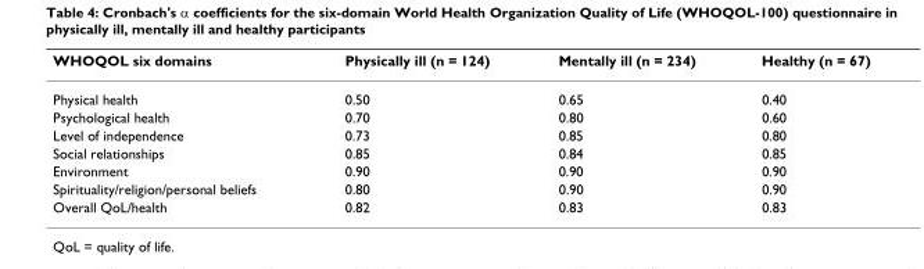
<table><thead><tr><td>WHOQOL six domains</td><td>Physically ill (n = 124)</td><td>Mentally ill (n = 234)</td><td>Healthy (n = 67)</td></tr></thead><tbody><tr><td>Physical health</td><td>0.50</td><td>0.65</td><td>0.40</td></tr><tr><td>Psychological health</td><td>0.70</td><td>0.80</td><td>0.60</td></tr><tr><td>Level of independence</td><td>0.73</td><td>0.85</td><td>0.80</td></tr><tr><td>Social relationships</td><td>0.85</td><td>0.84</td><td>0.85</td></tr><tr><td>Environment</td><td>0.90</td><td>0.90</td><td>0.90</td></tr><tr><td>Spirituality/religion/personal beliefs</td><td>0.80</td><td>0.90</td><td>0.90</td></tr><tr><td>Overall QoL/health</td><td>0.82</td><td>0.83</td><td>0.83</td></tr></tbody></table>